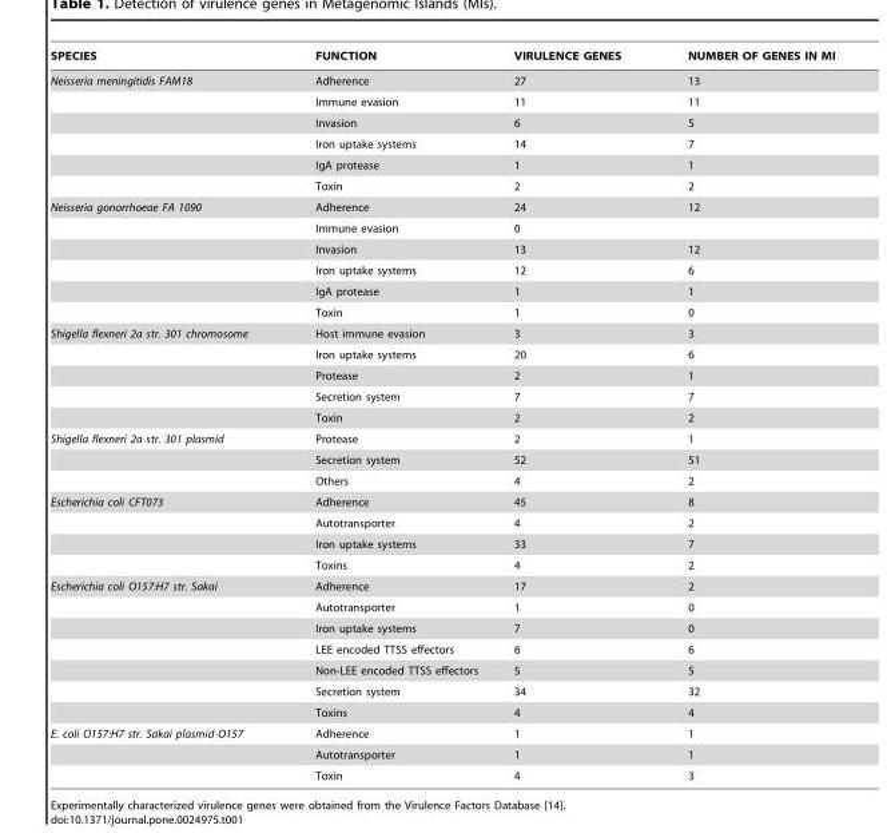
<table><thead><tr><td>SPECIES</td><td>FUNCTION</td><td>VIRULENCE GENES</td><td>NUMBER OF GENES IN MI</td></tr></thead><tbody><tr><td rowspan="6">Neisseria meningitidis FAM18</td><td>Adherence</td><td>27</td><td>13</td></tr><tr><td>Immune evasion</td><td>11</td><td>11</td></tr><tr><td>Invasion</td><td>6</td><td>5</td></tr><tr><td>Iron uptake systems</td><td>14</td><td>7</td></tr><tr><td>IgA protease</td><td>1</td><td>1</td></tr><tr><td>Toxin</td><td>2</td><td>2</td></tr><tr><td rowspan="6">Neisseria gonorrhoeae FA 1090</td><td>Adherence</td><td>24</td><td>12</td></tr><tr><td>Immune evasion</td><td>0</td><td></td></tr><tr><td>Invasion</td><td>13</td><td>12</td></tr><tr><td>Iron uptake systems</td><td>12</td><td>6</td></tr><tr><td>IgA protease</td><td>1</td><td>1</td></tr><tr><td>Toxin</td><td>1</td><td>0</td></tr><tr><td rowspan="5">Shigella flexneri 2a str. 301 chromosome</td><td>Host immune evasion</td><td>3</td><td>3</td></tr><tr><td>Iron uptake systems</td><td>20</td><td>6</td></tr><tr><td>Protease</td><td>2</td><td>1</td></tr><tr><td>Secretion system</td><td>7</td><td>7</td></tr><tr><td>Toxin</td><td>2</td><td>2</td></tr><tr><td rowspan="3">Shigella flexneri 2a str. 301 plasmid</td><td>Protease</td><td>2</td><td>1</td></tr><tr><td>Secretion system</td><td>52</td><td>51</td></tr><tr><td>Others</td><td>4</td><td>2</td></tr><tr><td rowspan="4">Escherichia coli CFT073</td><td>Adherence</td><td>45</td><td>8</td></tr><tr><td>Autotransporter</td><td>4</td><td>2</td></tr><tr><td>Iron uptake systems</td><td>33</td><td>7</td></tr><tr><td>Toxins</td><td>4</td><td>2</td></tr><tr><td rowspan="7">Escherichia coli O157:H7 str. Sakai</td><td>Adherence</td><td>17</td><td>2</td></tr><tr><td>Autotransporter</td><td>1</td><td>0</td></tr><tr><td>Iron uptake systems</td><td>7</td><td>0</td></tr><tr><td>LEE encoded TTSS effectors</td><td>6</td><td>6</td></tr><tr><td>Non-LEE encoded TTSS effectors</td><td>5</td><td>5</td></tr><tr><td>Secretion system</td><td>34</td><td>32</td></tr><tr><td>Toxins</td><td>4</td><td>4</td></tr><tr><td rowspan="3">E. coli O157:H7 str. Sakai plasmid O157</td><td>Adherence</td><td>1</td><td>1</td></tr><tr><td>Autotransporter</td><td>1</td><td>1</td></tr><tr><td>Toxin</td><td>4</td><td>3</td></tr></tbody></table>